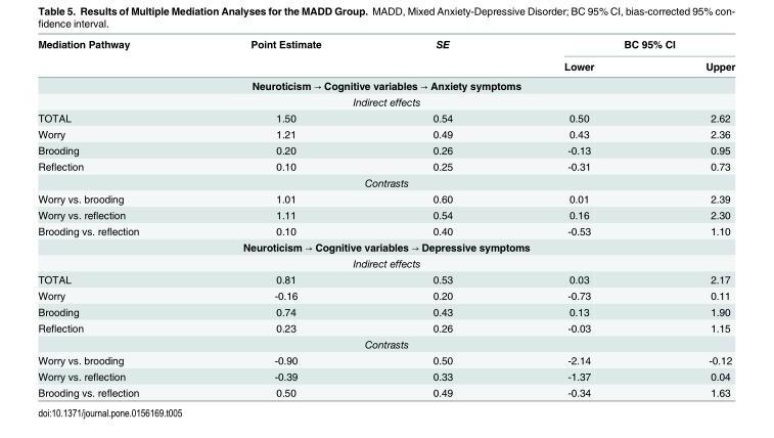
<table><thead><tr><td rowspan="2">Mediation Pathway</td><td rowspan="2">Point Estimate</td><td rowspan="2">SE</td><td colspan="2">BC 95% CI</td></tr><tr><td>Lower</td><td>Upper</td></tr></thead><tbody><tr><td colspan="5">Neuroticism → Cognitive variables → Anxiety symptoms</td></tr><tr><td colspan="5">Indirect effects</td></tr><tr><td>TOTAL</td><td>1.50</td><td>0.54</td><td>0.50</td><td>2.62</td></tr><tr><td>Worry</td><td>1.21</td><td>0.49</td><td>0.43</td><td>2.36</td></tr><tr><td>Brooding</td><td>0.20</td><td>0.26</td><td>-0.13</td><td>0.95</td></tr><tr><td>Reflection</td><td>0.10</td><td>0.25</td><td>-0.31</td><td>0.73</td></tr><tr><td colspan="5">Contrasts</td></tr><tr><td>Worry vs. brooding</td><td>1.01</td><td>0.60</td><td>0.01</td><td>2.39</td></tr><tr><td>Worry vs. reflection</td><td>1.11</td><td>0.54</td><td>0.16</td><td>2.30</td></tr><tr><td>Brooding vs. reflection</td><td>0.10</td><td>0.40</td><td>-0.53</td><td>1.10</td></tr><tr><td colspan="5">Neuroticism → Cognitive variables → Depressive symptoms</td></tr><tr><td colspan="5">Indirect effects</td></tr><tr><td>TOTAL</td><td>0.81</td><td>0.53</td><td>0.03</td><td>2.17</td></tr><tr><td>Worry</td><td>-0.16</td><td>0.20</td><td>-0.73</td><td>0.11</td></tr><tr><td>Brooding</td><td>0.74</td><td>0.43</td><td>0.13</td><td>1.90</td></tr><tr><td>Reflection</td><td>0.23</td><td>0.26</td><td>-0.03</td><td>1.15</td></tr><tr><td colspan="5">Contrasts</td></tr><tr><td>Worry vs. brooding</td><td>-0.90</td><td>0.50</td><td>-2.14</td><td>-0.12</td></tr><tr><td>Worry vs. reflection</td><td>-0.39</td><td>0.33</td><td>-1.37</td><td>0.04</td></tr><tr><td>Brooding vs. reflection</td><td>0.50</td><td>0.49</td><td>-0.34</td><td>1.63</td></tr></tbody></table>